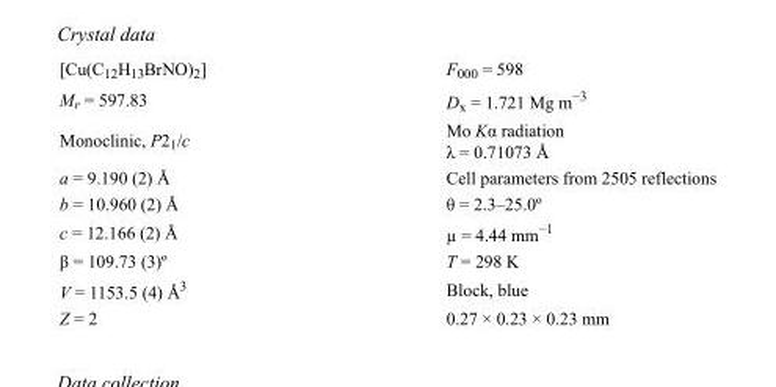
<table><tbody><tr><td>[Cu(C<sub>12</sub>H<sub>13</sub>BrNO)<sub>2</sub>]</td><td>F000 = 598</td></tr><tr><td>M<sub>r</sub> = 597.83</td><td>D<sub>x</sub> = 1.721 Mg m<sup>−3</sup></td></tr><tr><td>Monoclinic, P2<sub>1</sub>/c</td><td>Mo Kα radiation λ = 0.71073 Å</td></tr><tr><td>a = 9.190 (2) Å</td><td>Cell parameters from 2505 reflections</td></tr><tr><td>b = 10.960 (2) Å</td><td>θ = 2.3–25.0º</td></tr><tr><td>c = 12.166 (2) Å</td><td>µ = 4.44 mm−1</td></tr><tr><td>β = 109.73 (3)º</td><td>T = 298 K</td></tr><tr><td>V = 1153.5 (4) Å<sup>3</sup></td><td>Block, blue</td></tr><tr><td>Z = 2</td><td>0.27 × 0.23 × 0.23 mm</td></tr></tbody></table>